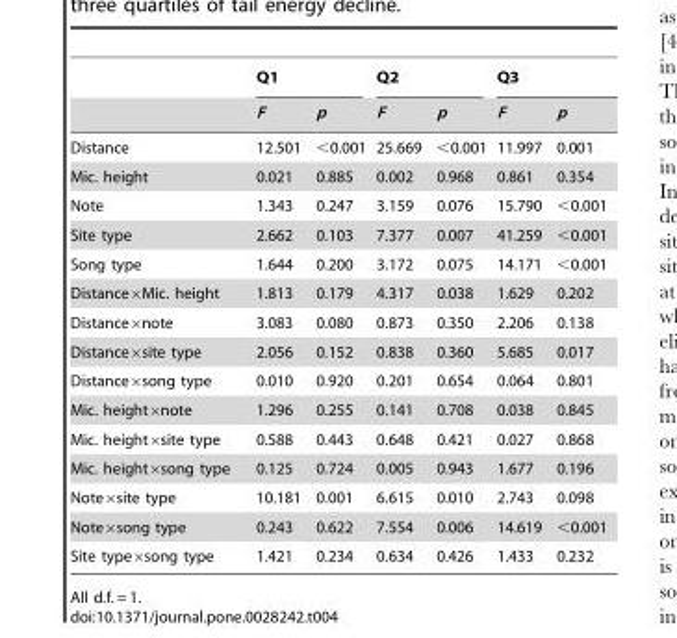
<table><thead><tr><td rowspan="2"></td><td colspan="2">Q1</td><td colspan="2">Q2</td><td colspan="2">Q3</td></tr><tr><td>F</td><td>p</td><td>F</td><td>p</td><td>F</td><td>p</td></tr></thead><tbody><tr><td>Distance</td><td>12.501</td><td>&lt;0.001</td><td>25.669</td><td>&lt;0.001</td><td>11.997</td><td>0.001</td></tr><tr><td>Mic. height</td><td>0.021</td><td>0.885</td><td>0.002</td><td>0.968</td><td>0.861</td><td>0.354</td></tr><tr><td>Note</td><td>1.343</td><td>0.247</td><td>3.159</td><td>0.076</td><td>15.790</td><td>&lt;0.001</td></tr><tr><td>Site type</td><td>2.662</td><td>0.103</td><td>7.377</td><td>0.007</td><td>41.259</td><td>&lt;0.001</td></tr><tr><td>Song type</td><td>1.644</td><td>0.200</td><td>3.172</td><td>0.075</td><td>14.171</td><td>&lt;0.001</td></tr><tr><td>Distance×Mic. height</td><td>1.813</td><td>0.179</td><td>4.317</td><td>0.038</td><td>1.629</td><td>0.202</td></tr><tr><td>Distance×note</td><td>3.083</td><td>0.080</td><td>0.873</td><td>0.350</td><td>2.206</td><td>0.138</td></tr><tr><td>Distance×site type</td><td>2.056</td><td>0.152</td><td>0.838</td><td>0.360</td><td>5.685</td><td>0.017</td></tr><tr><td>Distance×song type</td><td>0.010</td><td>0.920</td><td>0.201</td><td>0.654</td><td>0.064</td><td>0.801</td></tr><tr><td>Mic. height×note</td><td>1.296</td><td>0.255</td><td>0.141</td><td>0.708</td><td>0.038</td><td>0.845</td></tr><tr><td>Mic. height×site type</td><td>0.588</td><td>0.443</td><td>0.648</td><td>0.421</td><td>0.027</td><td>0.868</td></tr><tr><td>Mic. height×song type</td><td>0.125</td><td>0.724</td><td>0.005</td><td>0.943</td><td>1.677</td><td>0.196</td></tr><tr><td>Note×site type</td><td>10.181</td><td>0.001</td><td>6.615</td><td>0.010</td><td>2.743</td><td>0.098</td></tr><tr><td>Note×song type</td><td>0.243</td><td>0.622</td><td>7.554</td><td>0.006</td><td>14.619</td><td>&lt;0.001</td></tr><tr><td>Site type×song type</td><td>1.421</td><td>0.234</td><td>0.634</td><td>0.426</td><td>1.433</td><td>0.232</td></tr></tbody></table>